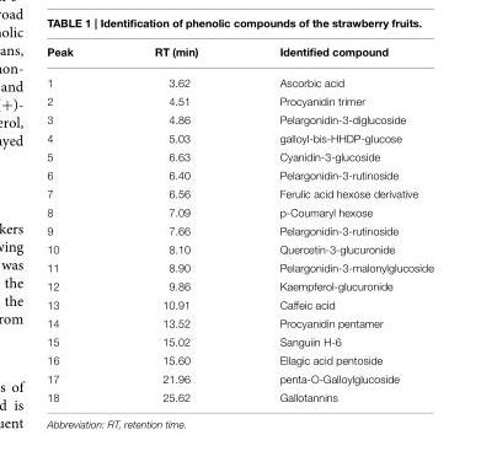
<table><thead><tr><td>Peak</td><td>RT (min)</td><td>Identified compound</td></tr></thead><tbody><tr><td>1</td><td>3.62</td><td>Ascorbic acid</td></tr><tr><td>2</td><td>4.51</td><td>Procyanidin trimer</td></tr><tr><td>3</td><td>4.86</td><td>Pelargonidin-3-diglucoside</td></tr><tr><td>4</td><td>5.03</td><td>galloyl-bis-HHDP-glucose</td></tr><tr><td>5</td><td>6.63</td><td>Cyanidin-3-glucoside</td></tr><tr><td>6</td><td>6.40</td><td>Pelargonidin-3-rutinoside</td></tr><tr><td>7</td><td>6.56</td><td>Ferulic acid hexose derivative</td></tr><tr><td>8</td><td>7.09</td><td>p-Coumaryl hexose</td></tr><tr><td>9</td><td>7.66</td><td>Pelargonidin-3-rutinoside</td></tr><tr><td>10</td><td>8.10</td><td>Quercetin-3-glucuronide</td></tr><tr><td>11</td><td>8.90</td><td>Pelargonidin-3-malonylglucoside</td></tr><tr><td>12</td><td>9.86</td><td>Kaempferol-glucuronide</td></tr><tr><td>13</td><td>10.91</td><td>Caffeic acid</td></tr><tr><td>14</td><td>13.52</td><td>Procyanidin pentamer</td></tr><tr><td>15</td><td>15.02</td><td>Sanguiin H-6</td></tr><tr><td>16</td><td>15.60</td><td>Ellagic acid pentoside</td></tr><tr><td>17</td><td>21.96</td><td>penta-O-Galloylglucoside</td></tr><tr><td>18</td><td>25.62</td><td>Gallotannins</td></tr></tbody></table>